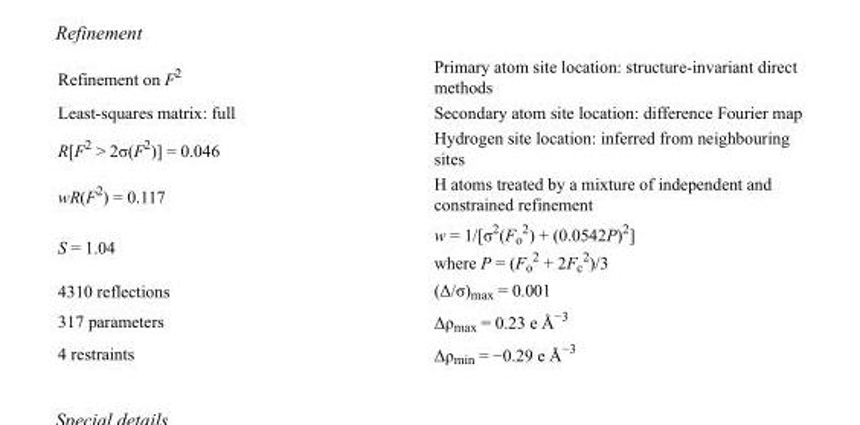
<table><tbody><tr><td>Refinement on F<sup>2</sup></td><td>Primary atom site location: structure-invariant direct methods</td></tr><tr><td>Least-squares matrix: full</td><td>Secondary atom site location: difference Fourier map</td></tr><tr><td>R[F<sup>2</sup> &gt; 2σ(F<sup>2</sup>)] = 0.046</td><td>Hydrogen site location: inferred from neighbouring sites</td></tr><tr><td>wR(F<sup>2</sup>) = 0.117</td><td>H atoms treated by a mixture of independent and constrained refinement</td></tr><tr><td>S = 1.04</td><td>w = 1/[σ<sup>2</sup>(F<sub>o</sub> <sup>2</sup>) + (0.0542P)<sup>2</sup>] where P = (F<sub>o</sub> <sup>2</sup> + 2F<sub>c</sub> <sup>2</sup>)/3</td></tr><tr><td>4310 reflections</td><td>(Δ/σ)<sub>max</sub> = 0.001</td></tr><tr><td>317 parameters</td><td>Δρ<sub>max</sub> = 0.23 e Å<sup>−3</sup></td></tr><tr><td>4 restraints</td><td>Δρ<sub>min</sub> = −0.29 e Å<sup>−3</sup></td></tr></tbody></table>